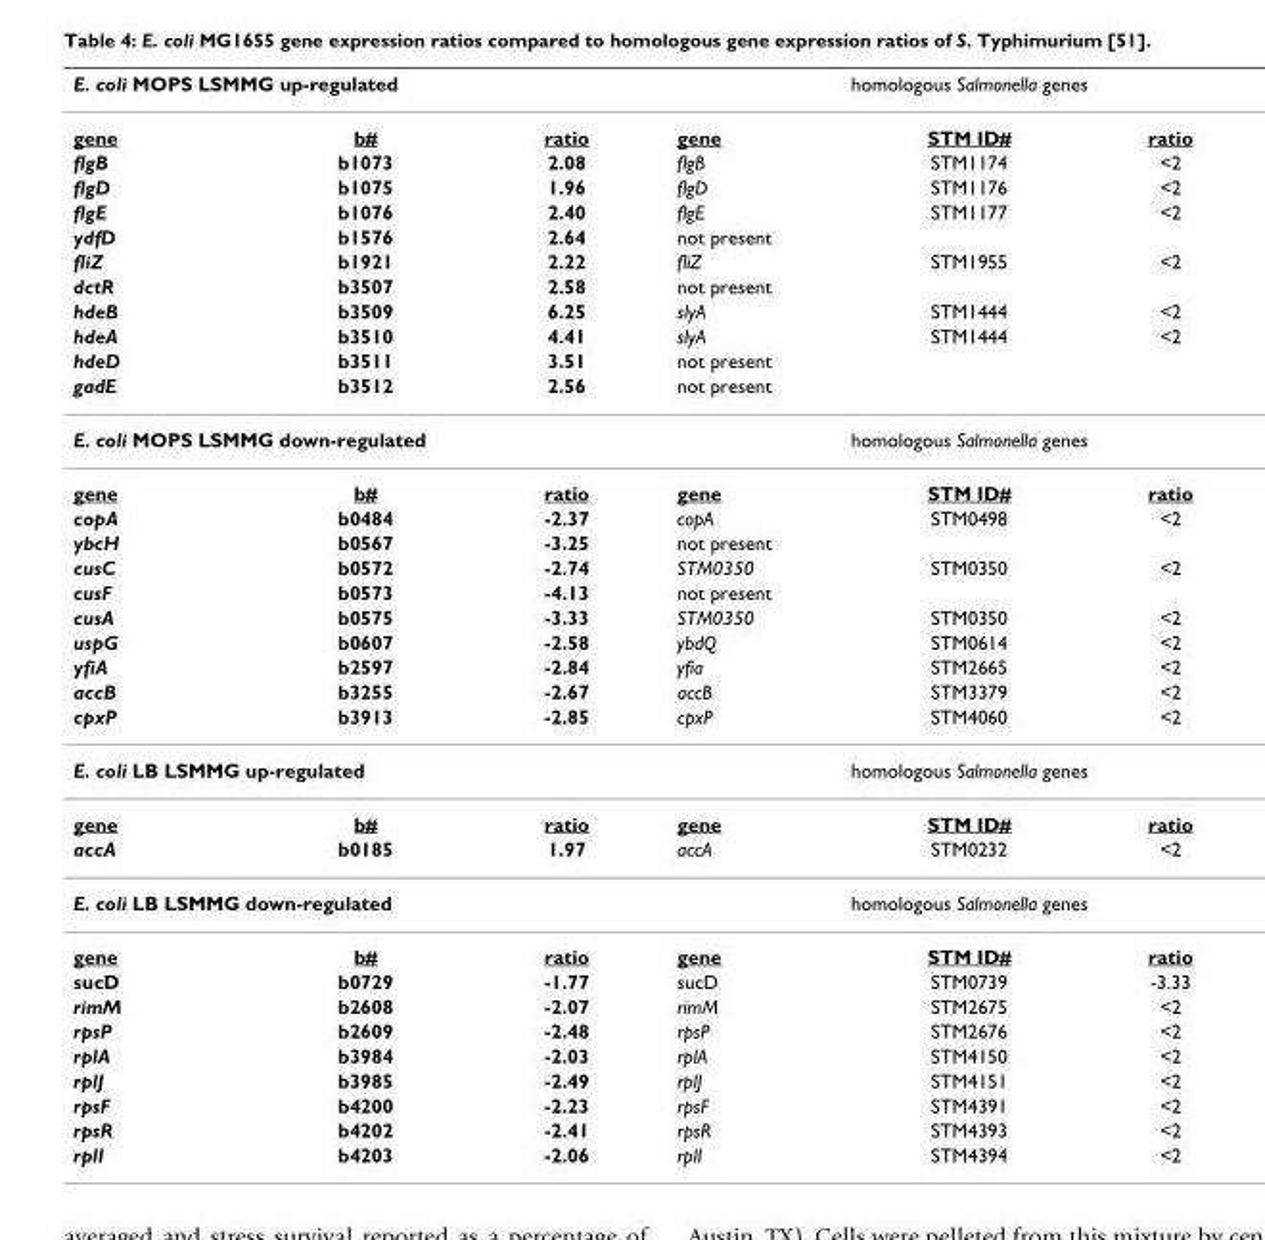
<table><thead><tr><td colspan="3">E. coli MOPS LSMMG up-regulated</td><td colspan="3">homologous Salmonella genes</td></tr><tr><td>gene</td><td>b#</td><td>ratio</td><td>gene</td><td>STM ID#</td><td>ratio</td></tr></thead><tbody><tr><td>flgB</td><td>b1073</td><td>2.08</td><td>flgB</td><td>STM1174</td><td>&lt;2</td></tr><tr><td>flgD</td><td>b1075</td><td>1.96</td><td>flgD</td><td>STM1176</td><td>&lt;2</td></tr><tr><td>flgE</td><td>b1076</td><td>2.40</td><td>flgE</td><td>STM1177</td><td>&lt;2</td></tr><tr><td>ydfD</td><td>b1576</td><td>2.64</td><td>not present</td><td></td><td></td></tr><tr><td>fliZ</td><td>b1921</td><td>2.22</td><td>fliZ</td><td>STM1955</td><td>&lt;2</td></tr><tr><td>dctR</td><td>b3507</td><td>2.58</td><td>not present</td><td></td><td></td></tr><tr><td>hdeB</td><td>b3509</td><td>6.25</td><td>slyA</td><td>STM1444</td><td>&lt;2</td></tr><tr><td>hdeA</td><td>b3510</td><td>4.41</td><td>slyA</td><td>STM1444</td><td>&lt;2</td></tr><tr><td>hdeD</td><td>b3511</td><td>3.51</td><td>not present</td><td></td><td></td></tr><tr><td>gadE</td><td>b3512</td><td>2.56</td><td>not present</td><td></td><td></td></tr><tr><td colspan="3">E. coli MOPS LSMMG down-regulated</td><td colspan="3">homologous Salmonella genes</td></tr><tr><td>gene</td><td>b#</td><td>ratio</td><td>gene</td><td>STM ID#</td><td>ratio</td></tr><tr><td>copA</td><td>b0484</td><td>-2.37</td><td>copA</td><td>STM0498</td><td>&lt;2</td></tr><tr><td>ybcH</td><td>b0567</td><td>-3.25</td><td>not present</td><td></td><td></td></tr><tr><td>cusC</td><td>b0572</td><td>-2.74</td><td>STM0350</td><td>STM0350</td><td>&lt;2</td></tr><tr><td>cusF</td><td>b0573</td><td>-4.13</td><td>not present</td><td></td><td></td></tr><tr><td>cusA</td><td>b0575</td><td>-3.33</td><td>STM0350</td><td>STM0350</td><td>&lt;2</td></tr><tr><td>uspG</td><td>b0607</td><td>-2.58</td><td>ybdQ</td><td>STM0614</td><td>&lt;2</td></tr><tr><td>yfiA</td><td>b2597</td><td>-2.84</td><td>yfia</td><td>STM2665</td><td>&lt;2</td></tr><tr><td>accB</td><td>b3255</td><td>-2.67</td><td>accB</td><td>STM3379</td><td>&lt;2</td></tr><tr><td>cpxP</td><td>b3913</td><td>-2.85</td><td>cpxP</td><td>STM4060</td><td>&lt;2</td></tr><tr><td colspan="3">E. coli LB LSMMG up-regulated</td><td colspan="3">homologous Salmonella genes</td></tr><tr><td>gene</td><td>b#</td><td>ratio</td><td>gene</td><td>STM ID#</td><td>ratio</td></tr><tr><td>accA</td><td>b0185</td><td>1.97</td><td>accA</td><td>STM0232</td><td>&lt;2</td></tr><tr><td colspan="3">E. coli LB LSMMG down-regulated</td><td colspan="3">homologous Salmonella genes</td></tr><tr><td>gene</td><td>b#</td><td>ratio</td><td>gene</td><td>STM ID#</td><td>ratio</td></tr><tr><td>sucD</td><td>b0729</td><td>-1.77</td><td>sucD</td><td>STM0739</td><td>-3.33</td></tr><tr><td>rimM</td><td>b2608</td><td>-2.07</td><td>rimM</td><td>STM2675</td><td>&lt;2</td></tr><tr><td>rpsP</td><td>b2609</td><td>-2.48</td><td>rpsP</td><td>STM2676</td><td>&lt;2</td></tr><tr><td>rplA</td><td>b3984</td><td>-2.03</td><td>rplA</td><td>STM4150</td><td>&lt;2</td></tr><tr><td>rplJ</td><td>b3985</td><td>-2.49</td><td>rplJ</td><td>STM4151</td><td>&lt;2</td></tr><tr><td>rpsF</td><td>b4200</td><td>-2.23</td><td>rpsF</td><td>STM4391</td><td>&lt;2</td></tr><tr><td>rpsR</td><td>b4202</td><td>-2.41</td><td>rpsR</td><td>STM4393</td><td>&lt;2</td></tr><tr><td>rplI</td><td>b4203</td><td>-2.06</td><td>rplI</td><td>STM4394</td><td>&lt;2</td></tr></tbody></table>